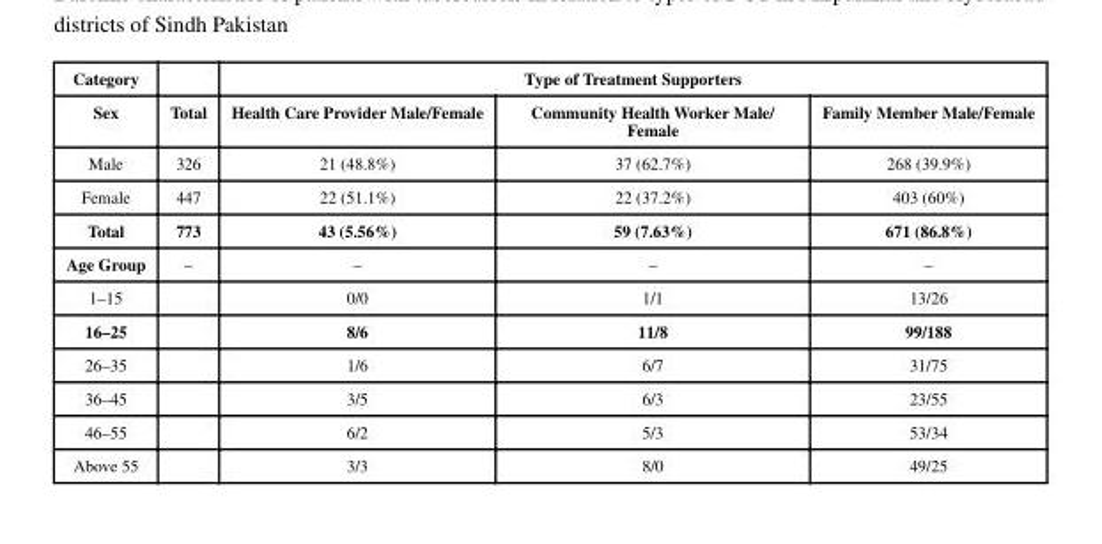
<table><thead><tr><td rowspan="2">Category Sex</td><td rowspan="2">Total</td><td colspan="3">Type of Treatment Supporters</td></tr><tr><td>Health Care Provider Male/Female</td><td>Community Health Worker Male/ Female</td><td>Family Member Male/Female</td></tr></thead><tbody><tr><td>Male</td><td>326</td><td>21 (48.8%)</td><td>37 (62.7%)</td><td>268 (39.9%)</td></tr><tr><td>Female</td><td>447</td><td>22 (51.1%)</td><td>22 (37.2%)</td><td>403 (60%)</td></tr><tr><td>Total</td><td>773</td><td>43 (5.56%)</td><td>59 (7.63%)</td><td>671 (86.8%)</td></tr><tr><td>Age Group</td><td>–</td><td>–</td><td>–</td><td>–</td></tr><tr><td>1–15</td><td></td><td>0/0</td><td>1/1</td><td>13/26</td></tr><tr><td>16–25</td><td></td><td>8/6</td><td>11/8</td><td>99/188</td></tr><tr><td>26–35</td><td></td><td>1/6</td><td>6/7</td><td>31/75</td></tr><tr><td>36–45</td><td></td><td>3/5</td><td>6/3</td><td>23/55</td></tr><tr><td>46–55</td><td></td><td>6/2</td><td>5/3</td><td>53/34</td></tr><tr><td>Above 55</td><td></td><td>3/3</td><td>8/0</td><td>49/25</td></tr></tbody></table>